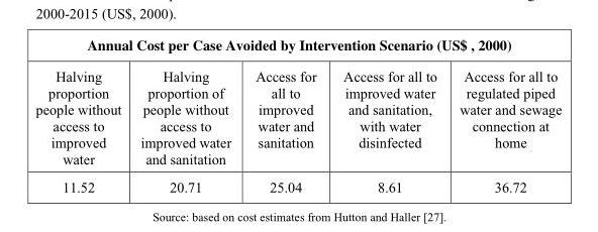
<table><thead><tr><td colspan="5">Annual Cost per Case Avoided by Intervention Scenario (US$ , 2000)</td></tr><tr><td>Halving proportion people without access to improved water</td><td>Halving proportion of people without access to improved water and sanitation</td><td>Access for all to improved water and sanitation</td><td>Access for all to improved water and sanitation, with water disinfected</td><td>Access for all to regulated piped water and sewage connection at home</td></tr></thead><tbody><tr><td>11.52</td><td>20.71</td><td>25.04</td><td>8.61</td><td>36.72</td></tr></tbody></table>